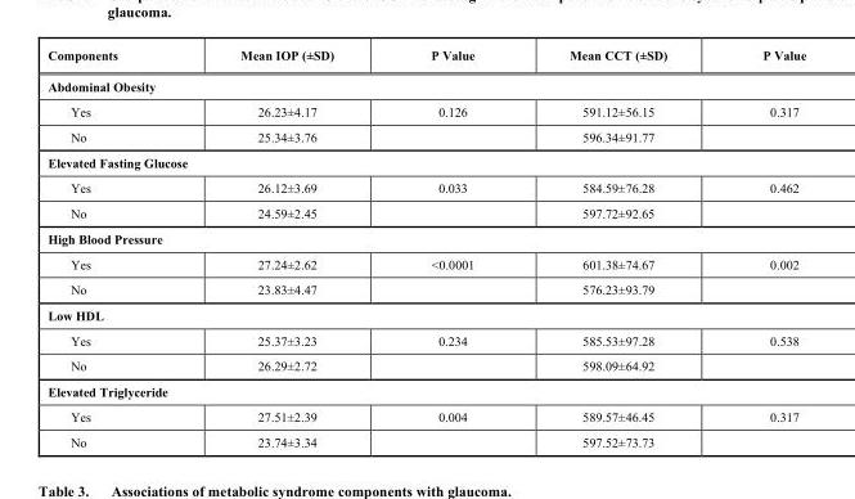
<table><thead><tr><td>Components</td><td>Mean IOP (±SD)</td><td>P Value</td><td>Mean CCT (±SD)</td><td>P Value</td></tr></thead><tbody><tr><td colspan="5">Abdominal Obesity</td></tr><tr><td>Yes</td><td>26.23±4.17</td><td>0.126</td><td>591.12±56.15</td><td>0.317</td></tr><tr><td>No</td><td>25.34±3.76</td><td></td><td>596.34±91.77</td><td></td></tr><tr><td colspan="5">Elevated Fasting Glucose</td></tr><tr><td>Yes</td><td>26.12±3.69</td><td>0.033</td><td>584.59±76.28</td><td>0.462</td></tr><tr><td>No</td><td>24.59±2.45</td><td></td><td>597.72±92.65</td><td></td></tr><tr><td colspan="5">High Blood Pressure</td></tr><tr><td>Yes</td><td>27.24±2.62</td><td>&lt;0.0001</td><td>601.38±74.67</td><td>0.002</td></tr><tr><td>No</td><td>23.83±4.47</td><td></td><td>576.23±93.79</td><td></td></tr><tr><td colspan="5">Low HDL</td></tr><tr><td>Yes</td><td>25.37±3.23</td><td>0.234</td><td>585.53±97.28</td><td>0.538</td></tr><tr><td>No</td><td>26.29±2.72</td><td></td><td>598.09±64.92</td><td></td></tr><tr><td colspan="5">Elevated Triglyceride</td></tr><tr><td>Yes</td><td>27.51±2.39</td><td>0.004</td><td>589.57±46.45</td><td>0.317</td></tr><tr><td>No</td><td>23.74±3.34</td><td></td><td>597.52±73.73</td><td></td></tr></tbody></table>